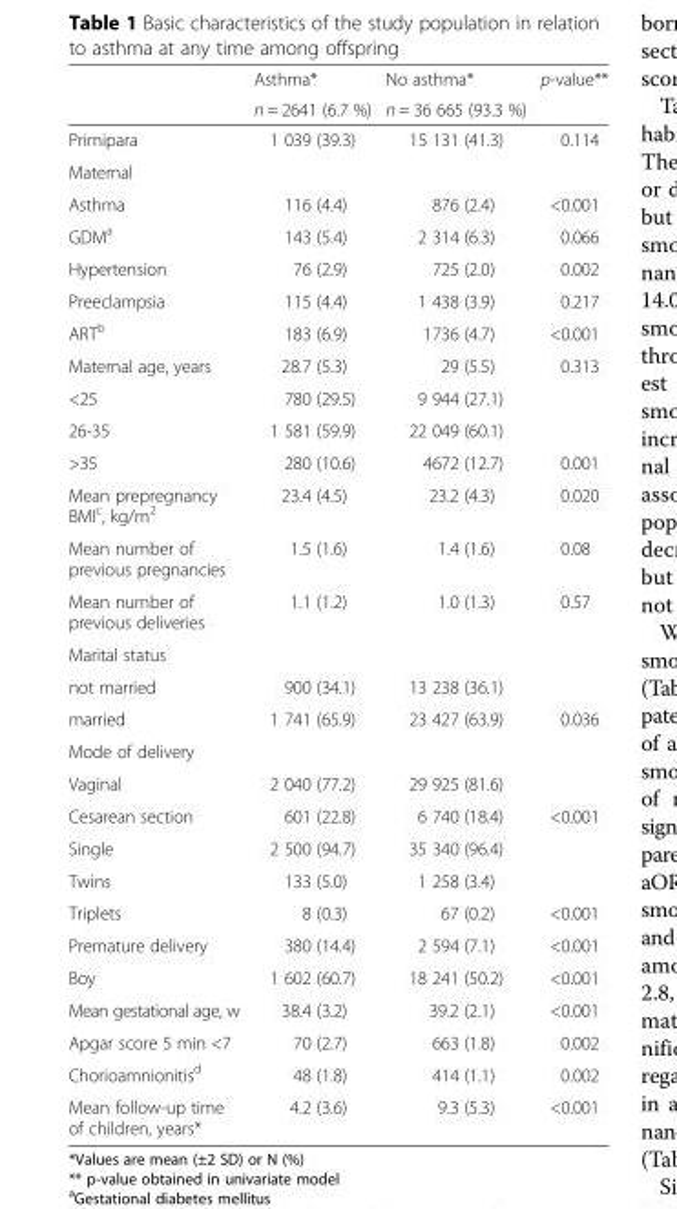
<table><thead><tr><td rowspan="2"></td><td rowspan="2">Asthma* n = 2641 (6.7 %)</td><td rowspan="2">No asthma* n = 36 665 (93.3 %)</td><td rowspan="2">p-value**</td></tr><tr></tr></thead><tbody><tr><td>Primipara</td><td>1 039 (39.3)</td><td>15 131 (41.3)</td><td>0.114</td></tr><tr><td colspan="4">Maternal</td></tr><tr><td>Asthma</td><td>116 (4.4)</td><td>876 (2.4)</td><td>&lt;0.001</td></tr><tr><td>GDM<sup>a</sup></td><td>143 (5.4)</td><td>2 314 (6.3)</td><td>0.066</td></tr><tr><td>Hypertension</td><td>76 (2.9)</td><td>725 (2.0)</td><td>0.002</td></tr><tr><td>Preeclampsia</td><td>115 (4.4)</td><td>1 438 (3.9)</td><td>0.217</td></tr><tr><td>ART<sup>b</sup></td><td>183 (6.9)</td><td>1736 (4.7)</td><td>&lt;0.001</td></tr><tr><td>Maternal age, years</td><td>28.7 (5.3)</td><td>29 (5.5)</td><td>0.313</td></tr><tr><td>&lt;25</td><td>780 (29.5)</td><td>9 944 (27.1)</td><td></td></tr><tr><td>26-35</td><td>1 581 (59.9)</td><td>22 049 (60.1)</td><td></td></tr><tr><td>&gt;35</td><td>280 (10.6)</td><td>4672 (12.7)</td><td>0.001</td></tr><tr><td>Mean prepregnancy BMI<sup>c</sup>, kg/m<sup>2</sup></td><td>23.4 (4.5)</td><td>23.2 (4.3)</td><td>0.020</td></tr><tr><td>Mean number of previous pregnancies</td><td>1.5 (1.6)</td><td>1.4 (1.6)</td><td>0.08</td></tr><tr><td>Mean number of previous deliveries</td><td>1.1 (1.2)</td><td>1.0 (1.3)</td><td>0.57</td></tr><tr><td colspan="4">Marital status</td></tr><tr><td>not married</td><td>900 (34.1)</td><td>13 238 (36.1)</td><td></td></tr><tr><td>married</td><td>1 741 (65.9)</td><td>23 427 (63.9)</td><td>0.036</td></tr><tr><td colspan="4">Mode of delivery</td></tr><tr><td>Vaginal</td><td>2 040 (77.2)</td><td>29 925 (81.6)</td><td></td></tr><tr><td>Cesarean section</td><td>601 (22.8)</td><td>6 740 (18.4)</td><td>&lt;0.001</td></tr><tr><td>Single</td><td>2 500 (94.7)</td><td>35 340 (96.4)</td><td></td></tr><tr><td>Twins</td><td>133 (5.0)</td><td>1 258 (3.4)</td><td></td></tr><tr><td>Triplets</td><td>8 (0.3)</td><td>67 (0.2)</td><td>&lt;0.001</td></tr><tr><td>Premature delivery</td><td>380 (14.4)</td><td>2 594 (7.1)</td><td>&lt;0.001</td></tr><tr><td>Boy</td><td>1 602 (60.7)</td><td>18 241 (50.2)</td><td>&lt;0.001</td></tr><tr><td>Mean gestational age, w</td><td>38.4 (3.2)</td><td>39.2 (2.1)</td><td>&lt;0.001</td></tr><tr><td>Apgar score 5 min &lt;7</td><td>70 (2.7)</td><td>663 (1.8)</td><td>0.002</td></tr><tr><td>Chorioamnionitis<sup>d</sup></td><td>48 (1.8)</td><td>414 (1.1)</td><td>0.002</td></tr><tr><td>Mean follow-up time of children, years*</td><td>4.2 (3.6)</td><td>9.3 (5.3)</td><td>&lt;0.001</td></tr></tbody></table>